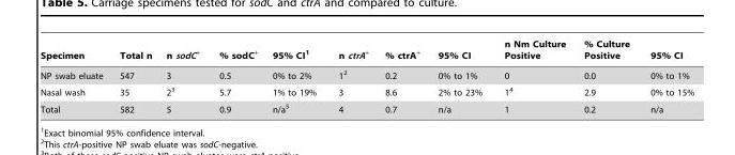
<table><thead><tr><td>Specimen</td><td>Total n</td><td>n sodC<sup>+</sup></td><td>% sodC<sup>+</sup></td><td>95% CI<sup>1</sup></td><td>n ctrA<sup>+</sup></td><td>% ctrA<sup>+</sup></td><td>95% CI</td><td>n Nm Culture Positive</td><td>% Culture Positive</td><td>95% CI</td></tr></thead><tbody><tr><td>NP swab eluate</td><td>547</td><td>3</td><td>0.5</td><td>0% to 2%</td><td>1<sup>2</sup></td><td>0.2</td><td>0% to 1%</td><td>0</td><td>0.0</td><td>0% to 1%</td></tr><tr><td>Nasal wash</td><td>35</td><td>2<sup>3</sup></td><td>5.7</td><td>1% to 19%</td><td>3</td><td>8.6</td><td>2% to 23%</td><td>1<sup>4</sup></td><td>2.9</td><td>0% to 15%</td></tr><tr><td>Total</td><td>582</td><td>5</td><td>0.9</td><td>n/a<sup>5</sup></td><td>4</td><td>0.7</td><td>n/a</td><td>1</td><td>0.2</td><td>n/a</td></tr></tbody></table>